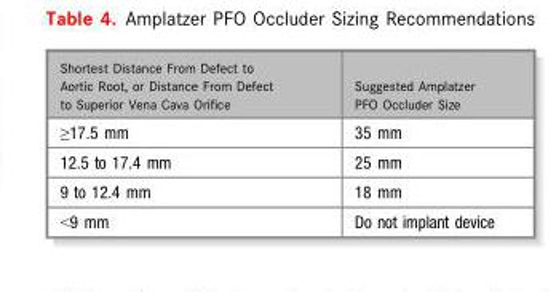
<table><thead><tr><td>Shortest Distance From Defect to Aortic Root, or Distance From Defect to Superior Vena Cava Orifice</td><td>Suggested Amplatzer PFO Occluder Size</td></tr></thead><tbody><tr><td>≥17.5 mm</td><td>35 mm</td></tr><tr><td>12.5 to 17.4 mm</td><td>25 mm</td></tr><tr><td>9 to 12.4 mm</td><td>18 mm</td></tr><tr><td>&lt;9 mm</td><td>Do not implant device</td></tr></tbody></table>